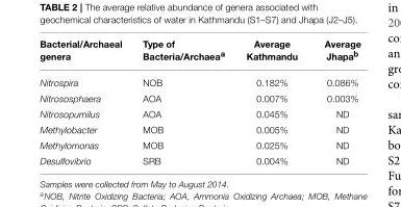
<table><thead><tr><td>Bacterial/Archaeal genera</td><td>Type of Bacteria/Archaea<sup>a</sup></td><td>Average Kathmandu</td><td>Average Jhapa<sup>b</sup></td></tr></thead><tbody><tr><td>Nitrospira</td><td>NOB</td><td>0.182%</td><td>0.086%</td></tr><tr><td>Nitrososphaera</td><td>AOA</td><td>0.007%</td><td>0.003%</td></tr><tr><td>Nitrosopumilus</td><td>AOA</td><td>0.045%</td><td>ND</td></tr><tr><td>Methylobacter</td><td>MOB</td><td>0.005%</td><td>ND</td></tr><tr><td>Methylomonas</td><td>MOB</td><td>0.025%</td><td>ND</td></tr><tr><td>Desulfovibrio</td><td>SRB</td><td>0.004%</td><td>ND</td></tr></tbody></table>